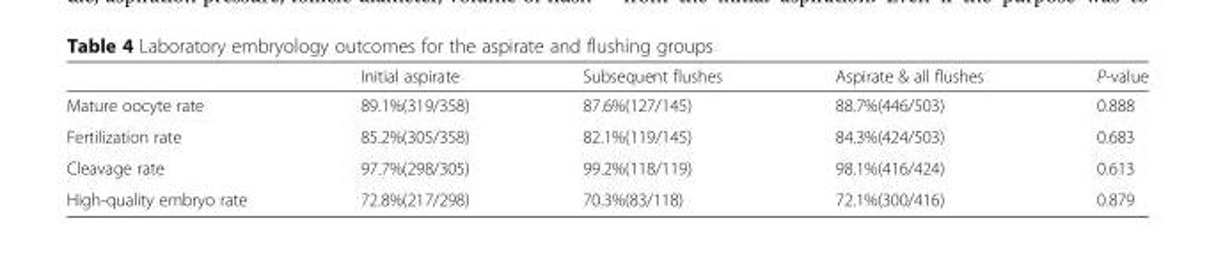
<table><thead><tr><td></td><td>Initial aspirate</td><td>Subsequent flushes</td><td>Aspirate &amp; all flushes</td><td>P-value</td></tr></thead><tbody><tr><td>Mature oocyte rate</td><td>89.1%(319/358)</td><td>87.6%(127/145)</td><td>88.7%(446/503)</td><td>0.888</td></tr><tr><td>Fertilization rate</td><td>85.2%(305/358)</td><td>82.1%(119/145)</td><td>84.3%(424/503)</td><td>0.683</td></tr><tr><td>Cleavage rate</td><td>97.7%(298/305)</td><td>99.2%(118/119)</td><td>98.1%(416/424)</td><td>0.613</td></tr><tr><td>High-quality embryo rate</td><td>72.8%(217/298)</td><td>70.3%(83/118)</td><td>72.1%(300/416)</td><td>0.879</td></tr></tbody></table>